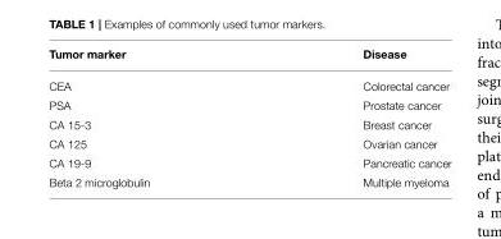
<table><thead><tr><td>Tumor marker</td><td>Disease</td></tr></thead><tbody><tr><td>CEA</td><td>Colorectal cancer</td></tr><tr><td>PSA</td><td>Prostate cancer</td></tr><tr><td>CA 15-3</td><td>Breast cancer</td></tr><tr><td>CA 125</td><td>Ovarian cancer</td></tr><tr><td>CA 19-9</td><td>Pancreatic cancer</td></tr><tr><td>Beta 2 microglobulin</td><td>Multiple myeloma</td></tr></tbody></table>